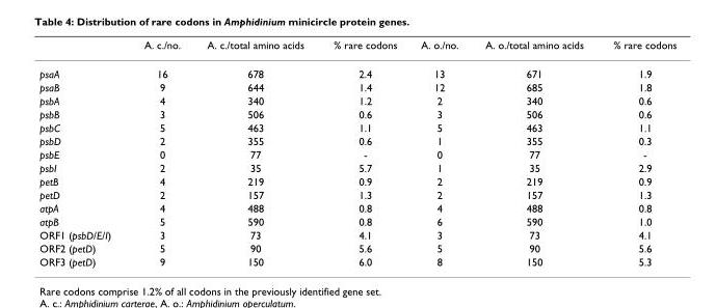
<table><thead><tr><td></td><td>A. c./no.</td><td>A. c./total amino acids</td><td>% rare codons</td><td>A. o./no.</td><td>A. o./total amino acids</td><td>% rare codons</td></tr></thead><tbody><tr><td>psaA</td><td>16</td><td>678</td><td>2.4</td><td>13</td><td>671</td><td>1.9</td></tr><tr><td>psaB</td><td>9</td><td>644</td><td>1.4</td><td>12</td><td>685</td><td>1.8</td></tr><tr><td>psbA</td><td>4</td><td>340</td><td>1.2</td><td>2</td><td>340</td><td>0.6</td></tr><tr><td>psbB</td><td>3</td><td>506</td><td>0.6</td><td>3</td><td>506</td><td>0.6</td></tr><tr><td>psbC</td><td>5</td><td>463</td><td>1.1</td><td>5</td><td>463</td><td>1.1</td></tr><tr><td>psbD</td><td>2</td><td>355</td><td>0.6</td><td>1</td><td>355</td><td>0.3</td></tr><tr><td>psbE</td><td>0</td><td>77</td><td>-</td><td>0</td><td>77</td><td>-</td></tr><tr><td>psbI</td><td>2</td><td>35</td><td>5.7</td><td>1</td><td>35</td><td>2.9</td></tr><tr><td>petB</td><td>4</td><td>219</td><td>0.9</td><td>2</td><td>219</td><td>0.9</td></tr><tr><td>petD</td><td>2</td><td>157</td><td>1.3</td><td>2</td><td>157</td><td>1.3</td></tr><tr><td>atpA</td><td>4</td><td>488</td><td>0.8</td><td>4</td><td>488</td><td>0.8</td></tr><tr><td>atpB</td><td>5</td><td>590</td><td>0.8</td><td>6</td><td>590</td><td>1.0</td></tr><tr><td>ORF1 (psbD/E/I)</td><td>3</td><td>73</td><td>4.1</td><td>3</td><td>73</td><td>4.1</td></tr><tr><td>ORF2 (petD)</td><td>5</td><td>90</td><td>5.6</td><td>5</td><td>90</td><td>5.6</td></tr><tr><td>ORF3 (petD)</td><td>9</td><td>150</td><td>6.0</td><td>8</td><td>150</td><td>5.3</td></tr></tbody></table>